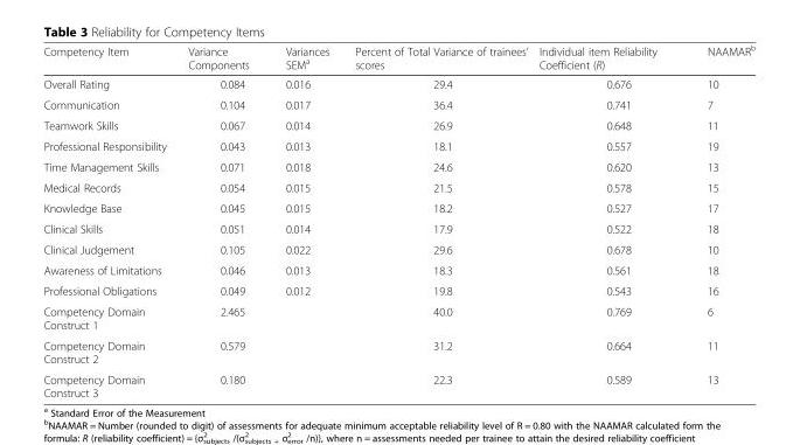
<table><thead><tr><td>Competency Item</td><td>Variance Components</td><td>Variances SEM<sup>a</sup></td><td>Percent of Total Variance of trainees’ scores</td><td>Individual item Reliability Coefficient (R)</td><td>NAAMAR<sup>b</sup></td></tr></thead><tbody><tr><td>Overall Rating</td><td>0.084</td><td>0.016</td><td>29.4</td><td>0.676</td><td>10</td></tr><tr><td>Communication</td><td>0.104</td><td>0.017</td><td>36.4</td><td>0.741</td><td>7</td></tr><tr><td>Teamwork Skills</td><td>0.067</td><td>0.014</td><td>26.9</td><td>0.648</td><td>11</td></tr><tr><td>Professional Responsibility</td><td>0.043</td><td>0.013</td><td>18.1</td><td>0.557</td><td>19</td></tr><tr><td>Time Management Skills</td><td>0.071</td><td>0.018</td><td>24.6</td><td>0.620</td><td>13</td></tr><tr><td>Medical Records</td><td>0.054</td><td>0.015</td><td>21.5</td><td>0.578</td><td>15</td></tr><tr><td>Knowledge Base</td><td>0.045</td><td>0.015</td><td>18.2</td><td>0.527</td><td>17</td></tr><tr><td>Clinical Skills</td><td>0.051</td><td>0.014</td><td>17.9</td><td>0.522</td><td>18</td></tr><tr><td>Clinical Judgement</td><td>0.105</td><td>0.022</td><td>29.6</td><td>0.678</td><td>10</td></tr><tr><td>Awareness of Limitations</td><td>0.046</td><td>0.013</td><td>18.3</td><td>0.561</td><td>18</td></tr><tr><td>Professional Obligations</td><td>0.049</td><td>0.012</td><td>19.8</td><td>0.543</td><td>16</td></tr><tr><td>Competency Domain Construct 1</td><td>2.465</td><td></td><td>40.0</td><td>0.769</td><td>6</td></tr><tr><td>Competency Domain Construct 2</td><td>0.579</td><td></td><td>31.2</td><td>0.664</td><td>11</td></tr><tr><td>Competency Domain Construct 3</td><td>0.180</td><td></td><td>22.3</td><td>0.589</td><td>13</td></tr></tbody></table>